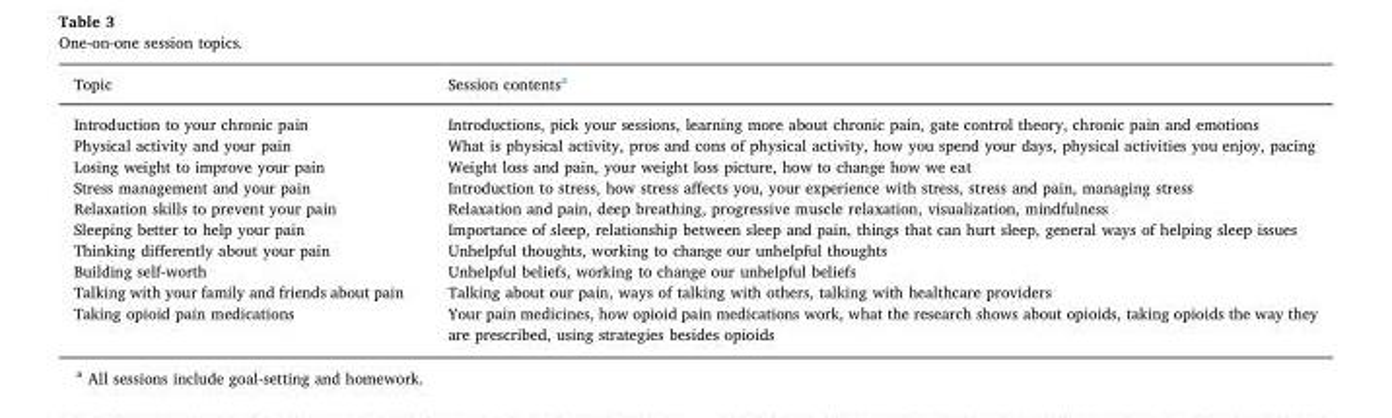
<table><thead><tr><td>Topic</td><td>Session contents<sup>a</sup></td></tr></thead><tbody><tr><td>Introduction to your chronic pain</td><td>Introductions, pick your sessions, learning more about chronic pain, gate control theory, chronic pain and emotions</td></tr><tr><td>Physical activity and your pain</td><td>What is physical activity, pros and cons of physical activity, how you spend your days, physical activities you enjoy, pacing</td></tr><tr><td>Losing weight to improve your pain</td><td>Weight loss and pain, your weight loss picture, how to change how we eat</td></tr><tr><td>Stress management and your pain</td><td>Introduction to stress, how stress affects you, your experience with stress, stress and pain, managing stress</td></tr><tr><td>Relaxation skills to prevent your pain</td><td>Relaxation and pain, deep breathing, progressive muscle relaxation, visualization, mindfulness</td></tr><tr><td>Sleeping better to help your pain</td><td>Importance of sleep, relationship between sleep and pain, things that can hurt sleep, general ways of helping sleep issues</td></tr><tr><td>Thinking differently about your pain</td><td>Unhelpful thoughts, working to change our unhelpful thoughts</td></tr><tr><td>Building self-worth</td><td>Unhelpful beliefs, working to change our unhelpful beliefs</td></tr><tr><td>Talking with your family and friends about pain</td><td>Talking about our pain, ways of talking with others, talking with healthcare providers</td></tr><tr><td>Taking opioid pain medications</td><td>Your pain medicines, how opioid pain medications work, what the research shows about opioids, taking opioids the way they are prescribed, using strategies besides opioids</td></tr></tbody></table>